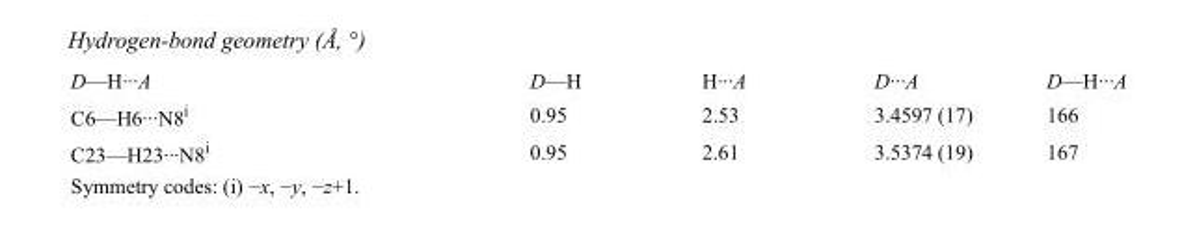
<table><tbody><tr><td>D—H···A</td><td>D—H</td><td>H···A</td><td>D···A</td><td>D—H···A</td></tr><tr><td>C6—H6···N8<sup>i</sup></td><td>0.95</td><td>2.53</td><td>3.4597 (17)</td><td>166</td></tr><tr><td>C23—H23···N8<sup>i</sup></td><td>0.95</td><td>2.61</td><td>3.5374 (19)</td><td>167</td></tr></tbody></table>